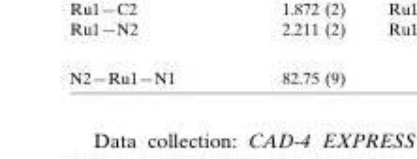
<table><tbody><tr><td>N2—Ru1—N1</td><td>82.75 (9)</td></tr></tbody></table>